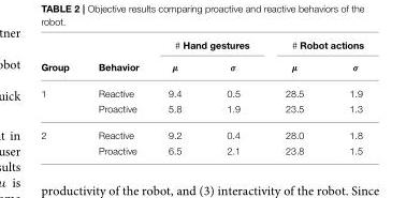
<table><thead><tr><td rowspan="2">Group</td><td rowspan="2">Behavior</td><td colspan="2"># Hand gestures</td><td colspan="2"># Robot actions</td></tr><tr><td>µ</td><td>σ</td><td>µ</td><td>σ</td></tr></thead><tbody><tr><td rowspan="2">1</td><td>Reactive</td><td>9.4</td><td>0.5</td><td>28.5</td><td>1.9</td></tr><tr><td>Proactive</td><td>5.8</td><td>1.9</td><td>23.5</td><td>1.3</td></tr><tr><td rowspan="2">2</td><td>Reactive</td><td>9.2</td><td>0.4</td><td>28.0</td><td>1.8</td></tr><tr><td>Proactive</td><td>6.5</td><td>2.1</td><td>23.8</td><td>1.5</td></tr></tbody></table>